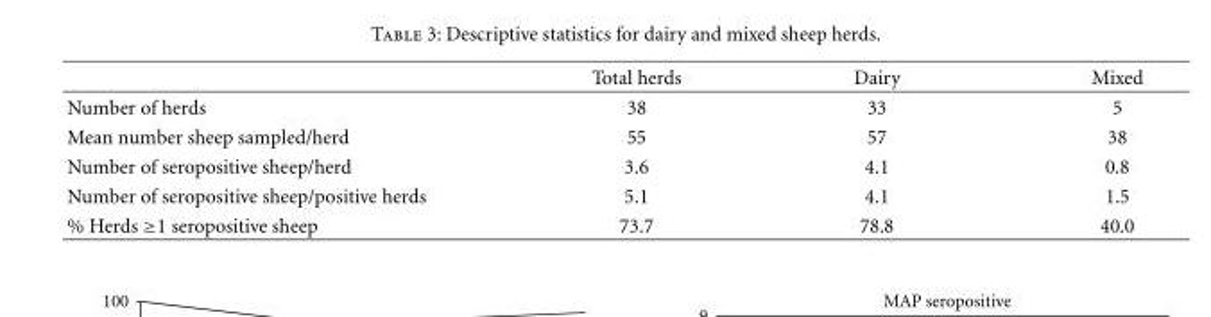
<table><thead><tr><td></td><td>Total herds</td><td>Dairy</td><td>Mixed</td></tr></thead><tbody><tr><td>Number of herds</td><td>38</td><td>33</td><td>5</td></tr><tr><td>Mean number sheep sampled/herd</td><td>55</td><td>57</td><td>38</td></tr><tr><td>Number of seropositive sheep/herd</td><td>3.6</td><td>4.1</td><td>0.8</td></tr><tr><td>Number of seropositive sheep/positive herds</td><td>5.1</td><td>4.1</td><td>1.5</td></tr><tr><td>% Herds ≥1 seropositive sheep</td><td>73.7</td><td>78.8</td><td>40.0</td></tr></tbody></table>